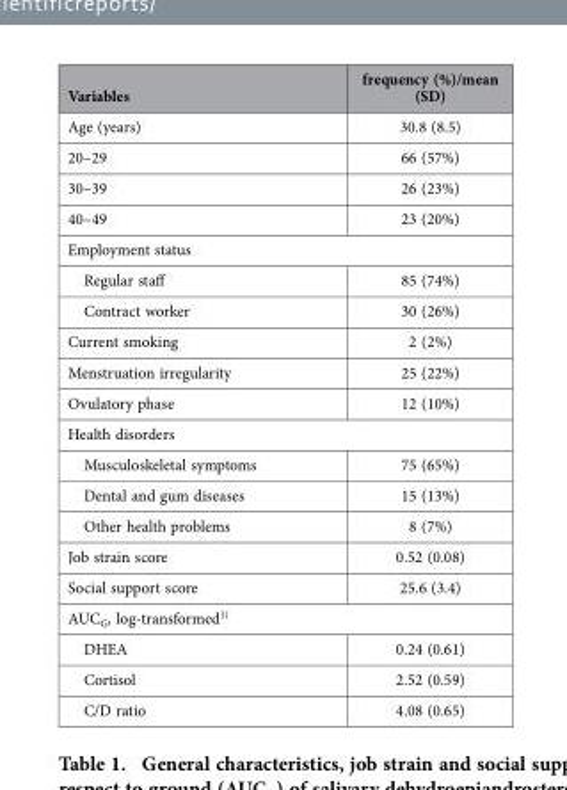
<table><thead><tr><td>Variables</td><td>frequency (%)/mean (SD)</td></tr></thead><tbody><tr><td>Age (years)</td><td>30.8 (8.5)</td></tr><tr><td>20–29</td><td>66 (57%)</td></tr><tr><td>30–39</td><td>26 (23%)</td></tr><tr><td>40–49</td><td>23 (20%)</td></tr><tr><td colspan="2">Employment status</td></tr><tr><td>Regular staff</td><td>85 (74%)</td></tr><tr><td>Contract worker</td><td>30 (26%)</td></tr><tr><td>Current smoking</td><td>2 (2%)</td></tr><tr><td>Menstruation irregularity</td><td>25 (22%)</td></tr><tr><td>Ovulatory phase</td><td>12 (10%)</td></tr><tr><td colspan="2">Health disorders</td></tr><tr><td>Musculoskeletal symptoms</td><td>75 (65%)</td></tr><tr><td>Dental and gum diseases</td><td>15 (13%)</td></tr><tr><td>Other health problems</td><td>8 (7%)</td></tr><tr><td>Job strain score</td><td>0.52 (0.08)</td></tr><tr><td>Social support score</td><td>25.6 (3.4)</td></tr><tr><td colspan="2">AUC<sub>G</sub>, log-transformed1)</td></tr><tr><td>DHEA</td><td>0.24 (0.61)</td></tr><tr><td>Cortisol</td><td>2.52 (0.59)</td></tr><tr><td>C/D ratio</td><td>4.08 (0.65)</td></tr></tbody></table>